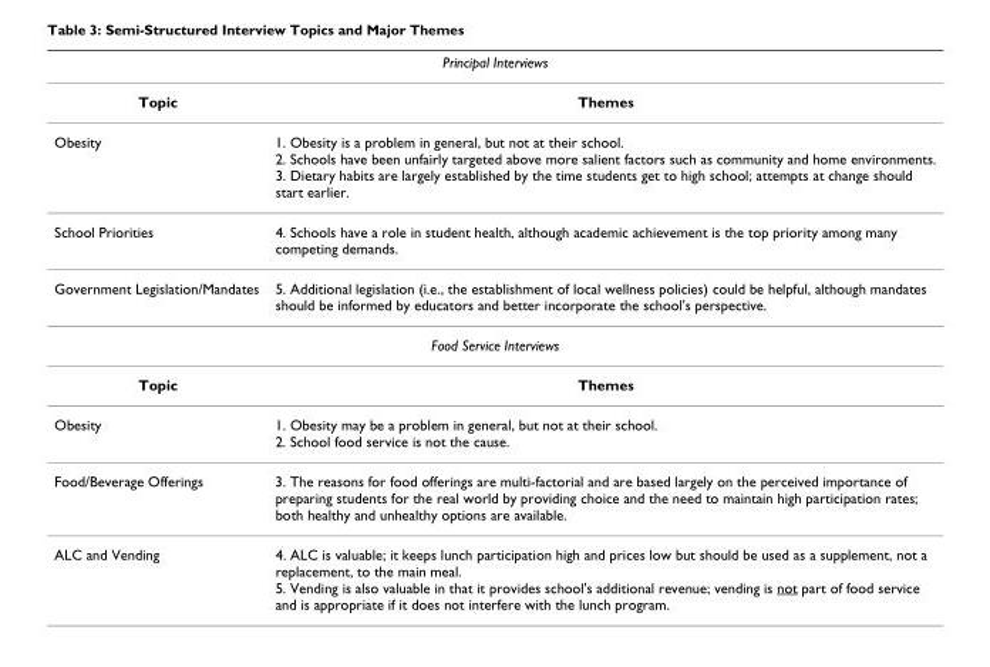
<table><thead><tr><td colspan="2">Principal Interviews</td></tr><tr><td>Topic</td><td>Themes</td></tr></thead><tbody><tr><td>Obesity</td><td>1. Obesity is a problem in general, but not at their school. 2. Schools have been unfairly targeted above more salient factors such as community and home environments. 3. Dietary habits are largely established by the time students get to high school; attempts at change should start earlier.</td></tr><tr><td>School Priorities</td><td>4. Schools have a role in student health, although academic achievement is the top priority among many competing demands.</td></tr><tr><td>Government Legislation/Mandates</td><td>5. Additional legislation (i.e., the establishment of local wellness policies) could be helpful, although mandates should be informed by educators and better incorporate the school&#x27;s perspective.</td></tr><tr><td colspan="2">Food Service Interviews</td></tr><tr><td>Topic</td><td>Themes</td></tr><tr><td>Obesity</td><td>1. Obesity may be a problem in general, but not at their school. 2. School food service is not the cause.</td></tr><tr><td>Food/Beverage Offerings</td><td>3. The reasons for food offerings are multi-factorial and are based largely on the perceived importance of preparing students for the real world by providing choice and the need to maintain high participation rates; both healthy and unhealthy options are available.</td></tr><tr><td>ALC and Vending</td><td>4. ALC is valuable; it keeps lunch participation high and prices low but should be used as a supplement, not a replacement, to the main meal. 5. Vending is also valuable in that it provides school&#x27;s additional revenue; vending is not part of food service and is appropriate if it does not interfere with the lunch program.</td></tr></tbody></table>